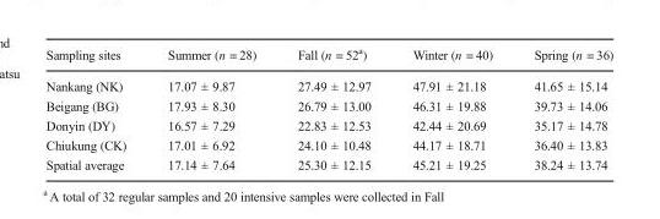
<table><thead><tr><td>Sampling sites</td><td>Summer (n = 28)</td><td>Fall (n = 52<sup>a</sup>)</td><td>Winter (n = 40)</td><td>Spring (n = 36)</td></tr></thead><tbody><tr><td>Nankang (NK)</td><td>17.07 ± 9.87</td><td>27.49 ± 12.97</td><td>47.91 ± 21.18</td><td>41.65 ± 15.14</td></tr><tr><td>Beigang (BG)</td><td>17.93 ± 8.30</td><td>26.79 ± 13.00</td><td>46.31 ± 19.88</td><td>39.73 ± 14.06</td></tr><tr><td>Donyin (DY)</td><td>16.57 ± 7.29</td><td>22.83 ± 12.53</td><td>42.44 ± 20.69</td><td>35.17 ± 14.78</td></tr><tr><td>Chiukung (CK)</td><td>17.01 ± 6.92</td><td>24.10 ± 10.48</td><td>44.17 ± 18.71</td><td>36.40 ± 13.83</td></tr><tr><td>Spatial average</td><td>17.14 ± 7.64</td><td>25.30 ± 12.15</td><td>45.21 ± 19.25</td><td>38.24 ± 13.74</td></tr></tbody></table>